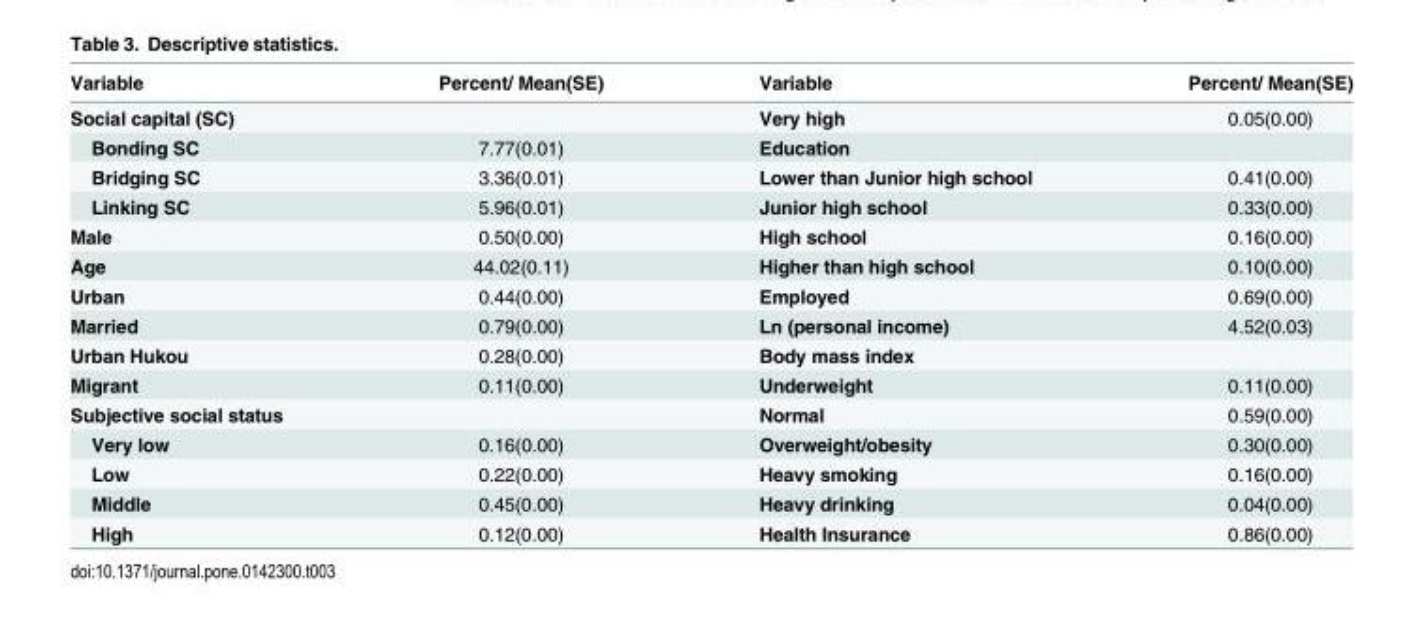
<table><thead><tr><td>Variable</td><td>Percent/ Mean(SE)</td><td>Variable</td><td>Percent/ Mean(SE)</td></tr></thead><tbody><tr><td>Social capital (SC)</td><td></td><td>Very high</td><td>0.05(0.00)</td></tr><tr><td>Bonding SC</td><td>7.77(0.01)</td><td>Education</td><td></td></tr><tr><td>Bridging SC</td><td>3.36(0.01)</td><td>Lower than Junior high school</td><td>0.41(0.00)</td></tr><tr><td>Linking SC</td><td>5.96(0.01)</td><td>Junior high school</td><td>0.33(0.00)</td></tr><tr><td>Male</td><td>0.50(0.00)</td><td>High school</td><td>0.16(0.00)</td></tr><tr><td>Age</td><td>44.02(0.11)</td><td>Higher than high school</td><td>0.10(0.00)</td></tr><tr><td>Urban</td><td>0.44(0.00)</td><td>Employed</td><td>0.69(0.00)</td></tr><tr><td>Married</td><td>0.79(0.00)</td><td>Ln (personal income)</td><td>4.52(0.03)</td></tr><tr><td>Urban Hukou</td><td>0.28(0.00)</td><td>Body mass index</td><td></td></tr><tr><td>Migrant</td><td>0.11(0.00)</td><td>Underweight</td><td>0.11(0.00)</td></tr><tr><td>Subjective social status</td><td></td><td>Normal</td><td>0.59(0.00)</td></tr><tr><td>Very low</td><td>0.16(0.00)</td><td>Overweight/obesity</td><td>0.30(0.00)</td></tr><tr><td>Low</td><td>0.22(0.00)</td><td>Heavy smoking</td><td>0.16(0.00)</td></tr><tr><td>Middle</td><td>0.45(0.00)</td><td>Heavy drinking</td><td>0.04(0.00)</td></tr><tr><td>High</td><td>0.12(0.00)</td><td>Health Insurance</td><td>0.86(0.00)</td></tr></tbody></table>